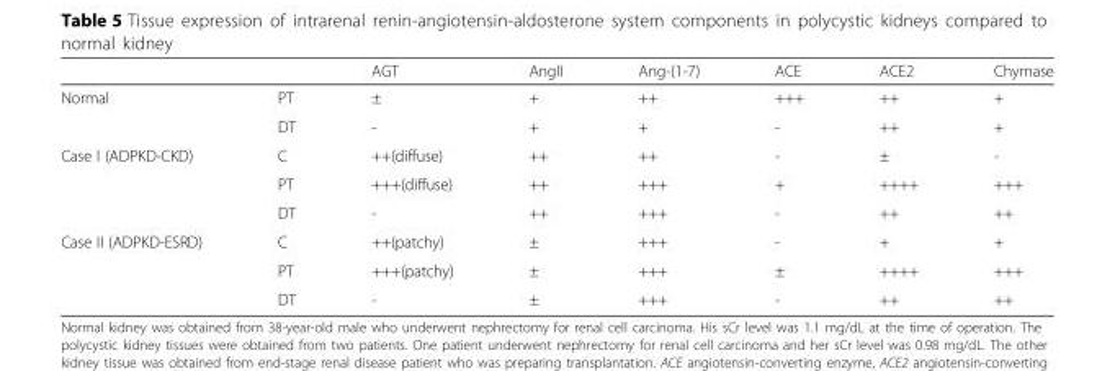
<table><thead><tr><td></td><td></td><td>AGT</td><td>AngII</td><td>Ang-(1-7)</td><td>ACE</td><td>ACE2</td><td>Chymase</td></tr></thead><tbody><tr><td rowspan="2">Normal</td><td>PT</td><td>±</td><td>+</td><td>++</td><td>+++</td><td>++</td><td>+</td></tr><tr><td>DT</td><td>-</td><td>+</td><td>+</td><td>-</td><td>++</td><td>+</td></tr><tr><td rowspan="3">Case I (ADPKD-CKD)</td><td>C</td><td>++(diffuse)</td><td>++</td><td>++</td><td>-</td><td>±</td><td>-</td></tr><tr><td>PT</td><td>+++(diffuse)</td><td>++</td><td>+++</td><td>+</td><td>++++</td><td>+++</td></tr><tr><td>DT</td><td>-</td><td>++</td><td>+++</td><td>-</td><td>++</td><td>++</td></tr><tr><td rowspan="3">Case II (ADPKD-ESRD)</td><td>C</td><td>++(patchy)</td><td>±</td><td>+++</td><td>-</td><td>+</td><td>+</td></tr><tr><td>PT</td><td>+++(patchy)</td><td>±</td><td>+++</td><td>±</td><td>++++</td><td>+++</td></tr><tr><td>DT</td><td>-</td><td>±</td><td>+++</td><td>-</td><td>++</td><td>++</td></tr></tbody></table>